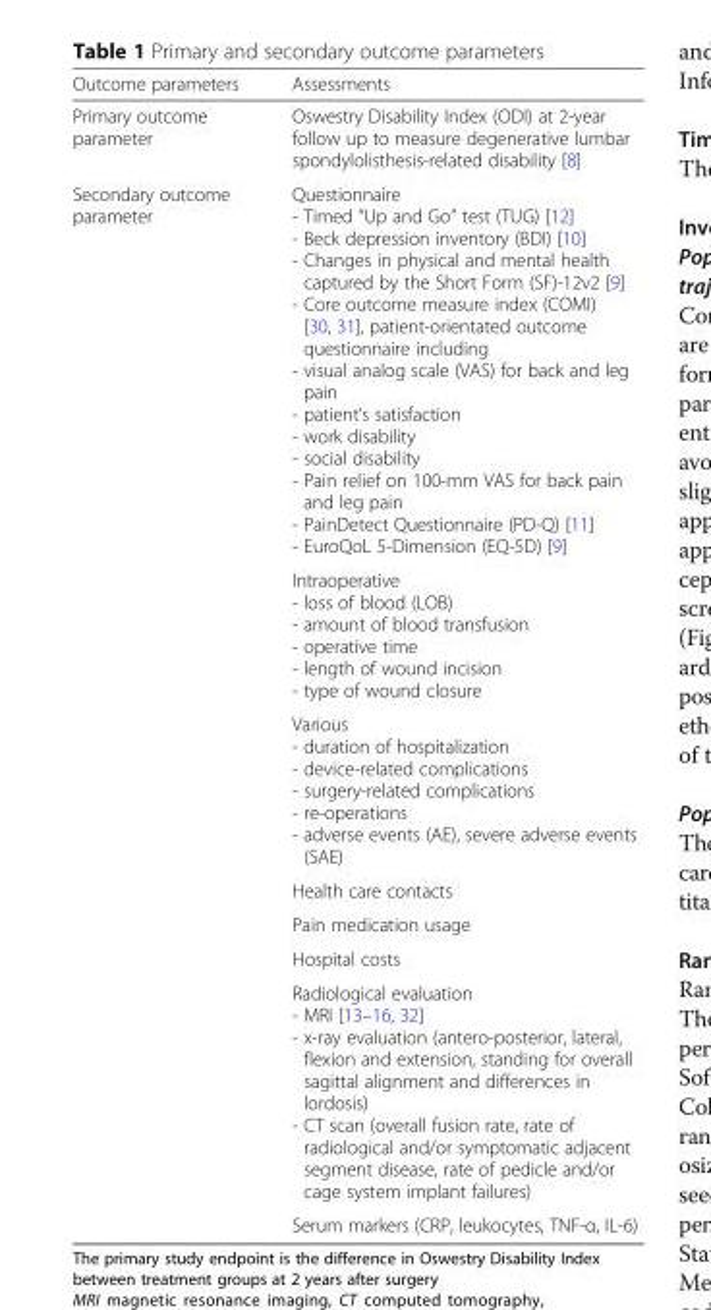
<table><thead><tr><td>Outcome parameters</td><td>Assessments</td></tr></thead><tbody><tr><td>Primary outcome parameter</td><td>Oswestry Disability Index (ODI) at 2-year follow up to measure degenerative lumbar spondylolisthesis-related disability [8]</td></tr><tr><td rowspan="8">Secondary outcome parameter</td><td>Questionnaire - Timed “Up and Go” test (TUG) [12] - Beck depression inventory (BDI) [10] - Changes in physical and mental health captured by the Short Form (SF)-12v2 [9] - Core outcome measure index (COMI) [30, 31], patient-orientated outcome questionnaire including - visual analog scale (VAS) for back and leg pain - patient’s satisfaction - work disability - social disability - Pain relief on 100-mm VAS for back pain and leg pain - PainDetect Questionnaire (PD-Q) [11] - EuroQoL 5-Dimension (EQ-5D) [9]</td></tr><tr><td>Intraoperative - loss of blood (LOB) - amount of blood transfusion - operative time - length of wound incision - type of wound closure</td></tr><tr><td>Various - duration of hospitalization - device-related complications - surgery-related complications - re-operations - adverse events (AE), severe adverse events (SAE)</td></tr><tr><td>Health care contacts</td></tr><tr><td>Pain medication usage</td></tr><tr><td>Hospital costs</td></tr><tr><td>Radiological evaluation - MRI [13–16, 32] - x-ray evaluation (antero-posterior, lateral, flexion and extension, standing for overall sagittal alignment and differences in lordosis) - CT scan (overall fusion rate, rate of radiological and/or symptomatic adjacent segment disease, rate of pedicle and/or cage system implant failures)</td></tr><tr><td>Serum markers (CRP, leukocytes, TNF-α, IL-6)</td></tr></tbody></table>